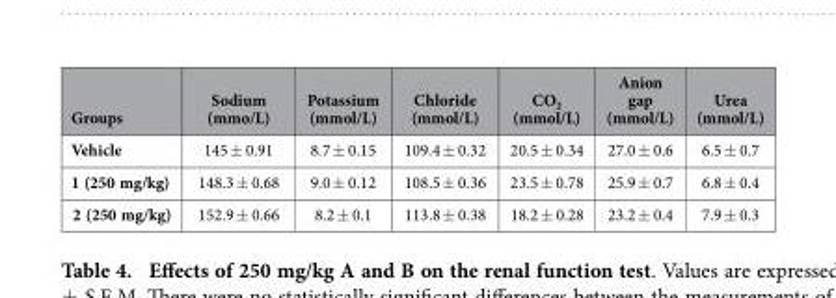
<table><thead><tr><td>Groups</td><td>Sodium (mmo/L)</td><td>Potassium (mmol/L)</td><td>Chloride (mmol/L)</td><td>CO<sub>2</sub> (mmol/L)</td><td>Anion gap (mmol/L)</td><td>Urea (mmol/L)</td></tr></thead><tbody><tr><td>Vehicle</td><td>145 ± 0.91</td><td>8.7 ± 0.15</td><td>109.4 ± 0.32</td><td>20.5 ± 0.34</td><td>27.0 ± 0.6</td><td>6.5 ± 0.7</td></tr><tr><td>1 (250 mg/kg)</td><td>148.3 ± 0.68</td><td>9.0 ± 0.12</td><td>108.5 ± 0.36</td><td>23.5 ± 0.78</td><td>25.9 ± 0.7</td><td>6.8 ± 0.4</td></tr><tr><td>2 (250 mg/kg)</td><td>152.9 ± 0.66</td><td>8.2 ± 0.1</td><td>113.8 ± 0.38</td><td>18.2 ± 0.28</td><td>23.2 ± 0.4</td><td>7.9 ± 0.3</td></tr></tbody></table>